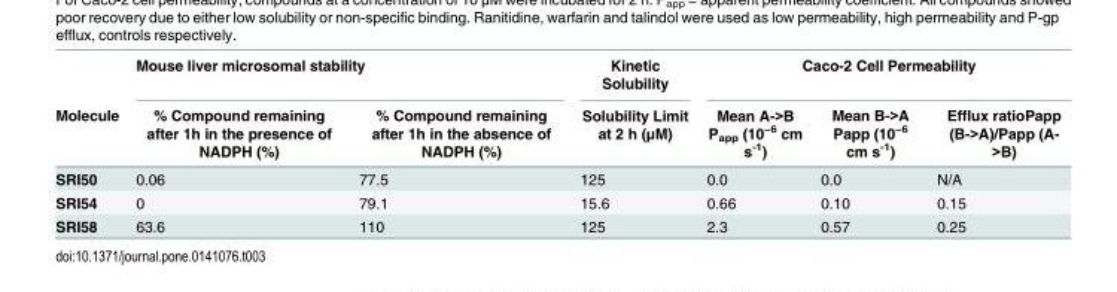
<table><thead><tr><td rowspan="2">Molecule</td><td colspan="2">Mouse liver microsomal stability</td><td rowspan="2">Kinetic Solubility Solubility Limit at 2 h (μM)</td><td colspan="3">Caco-2 Cell Permeability</td></tr><tr><td>% Compound remaining after 1h in the presence of NADPH (%)</td><td>% Compound remaining after 1h in the absence of NADPH (%)</td><td>Mean A-&gt;B P<sub>app</sub> (10<sup>−6</sup> cm s<sup>-1</sup>)</td><td>Mean B-&gt;A Papp (10<sup>−6</sup> cm s<sup>-1</sup>)</td><td>Efflux ratioPapp (B-&gt;A)/Papp (A- &gt;B)</td></tr></thead><tbody><tr><td>SRI50</td><td>0.06</td><td>77.5</td><td>125</td><td>0.0</td><td>0.0</td><td>N/A</td></tr><tr><td>SRI54</td><td>0</td><td>79.1</td><td>15.6</td><td>0.66</td><td>0.10</td><td>0.15</td></tr><tr><td>SRI58</td><td>63.6</td><td>110</td><td>125</td><td>2.3</td><td>0.57</td><td>0.25</td></tr></tbody></table>